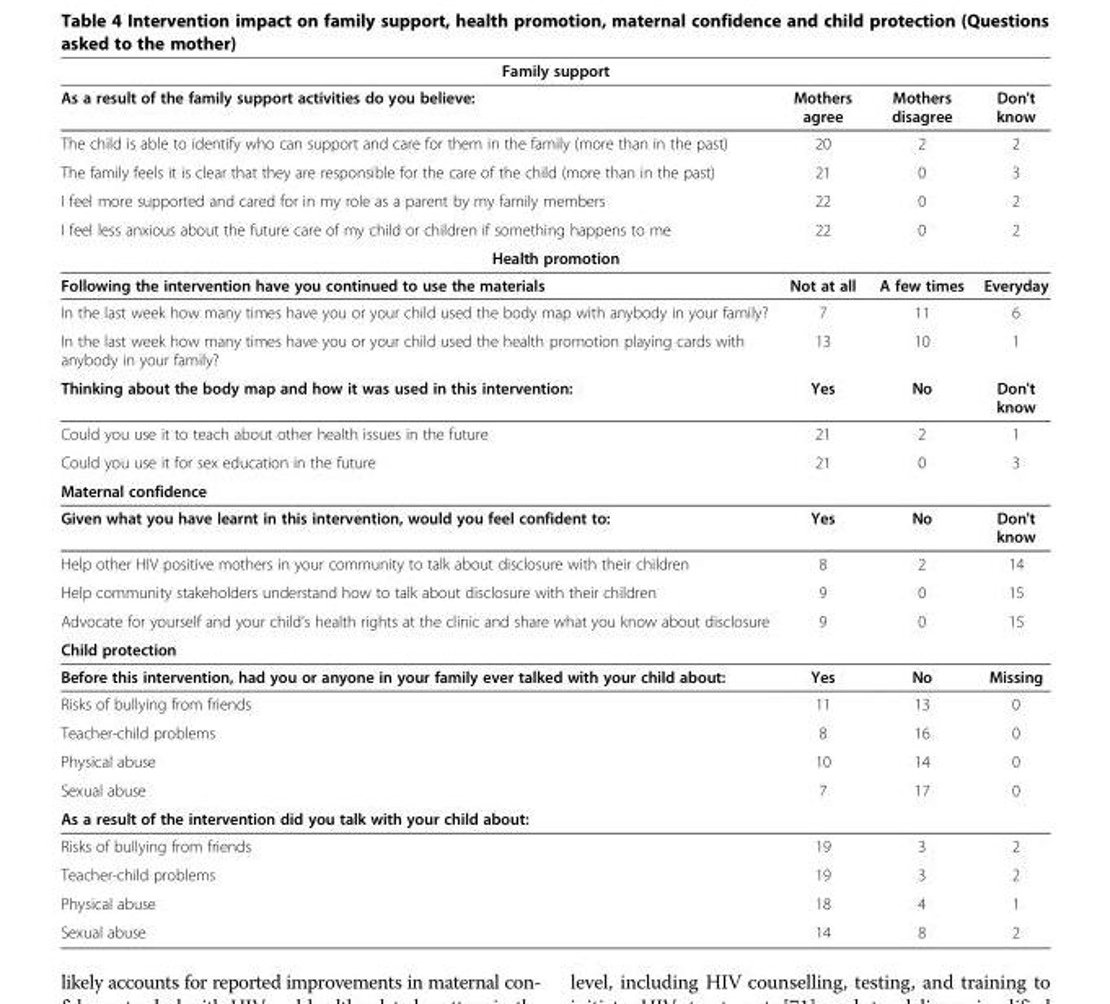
<table><thead><tr><td colspan="4">Family support</td></tr><tr><td>As a result of the family support activities do you believe:</td><td>Mothers agree</td><td>Mothers disagree</td><td>Don&#x27;t know</td></tr></thead><tbody><tr><td>The child is able to identify who can support and care for them in the family (more than in the past)</td><td>20</td><td>2</td><td>2</td></tr><tr><td>The family feels it is clear that they are responsible for the care of the child (more than in the past)</td><td>21</td><td>0</td><td>3</td></tr><tr><td>I feel more supported and cared for in my role as a parent by my family members</td><td>22</td><td>0</td><td>2</td></tr><tr><td>I feel less anxious about the future care of my child or children if something happens to me</td><td>22</td><td>0</td><td>2</td></tr><tr><td colspan="4">Health promotion</td></tr><tr><td>Following the intervention have you continued to use the materials</td><td>Not at all</td><td>A few times</td><td>Everyday</td></tr><tr><td>In the last week how many times have you or your child used the body map with anybody in your family?</td><td>7</td><td>11</td><td>6</td></tr><tr><td>In the last week how many times have you or your child used the health promotion playing cards with anybody in your family?</td><td>13</td><td>10</td><td>1</td></tr><tr><td>Thinking about the body map and how it was used in this intervention:</td><td>Yes</td><td>No</td><td>Don&#x27;t know</td></tr><tr><td>Could you use it to teach about other health issues in the future</td><td>21</td><td>2</td><td>1</td></tr><tr><td>Could you use it for sex education in the future</td><td>21</td><td>0</td><td>3</td></tr><tr><td colspan="4">Maternal confidence</td></tr><tr><td>Given what you have learnt in this intervention, would you feel confident to:</td><td>Yes</td><td>No</td><td>Don&#x27;t know</td></tr><tr><td>Help other HIV positive mothers in your community to talk about disclosure with their children</td><td>8</td><td>2</td><td>14</td></tr><tr><td>Help community stakeholders understand how to talk about disclosure with their children</td><td>9</td><td>0</td><td>15</td></tr><tr><td>Advocate for yourself and your child’s health rights at the clinic and share what you know about disclosure</td><td>9</td><td>0</td><td>15</td></tr><tr><td colspan="4">Child protection</td></tr><tr><td>Before this intervention, had you or anyone in your family ever talked with your child about:</td><td>Yes</td><td>No</td><td>Missing</td></tr><tr><td>Risks of bullying from friends</td><td>11</td><td>13</td><td>0</td></tr><tr><td>Teacher-child problems</td><td>8</td><td>16</td><td>0</td></tr><tr><td>Physical abuse</td><td>10</td><td>14</td><td>0</td></tr><tr><td>Sexual abuse</td><td>7</td><td>17</td><td>0</td></tr><tr><td colspan="4">As a result of the intervention did you talk with your child about:</td></tr><tr><td>Risks of bullying from friends</td><td>19</td><td>3</td><td>2</td></tr><tr><td>Teacher-child problems</td><td>19</td><td>3</td><td>2</td></tr><tr><td>Physical abuse</td><td>18</td><td>4</td><td>1</td></tr><tr><td>Sexual abuse</td><td>14</td><td>8</td><td>2</td></tr></tbody></table>